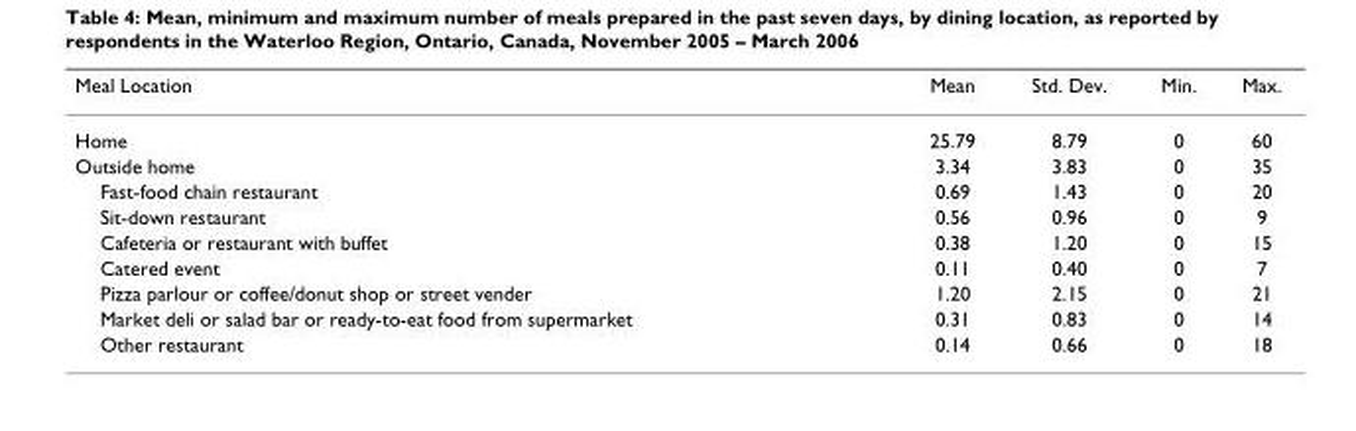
<table><thead><tr><td>Meal Location</td><td>Mean</td><td>Std. Dev.</td><td>Min.</td><td>Max.</td></tr></thead><tbody><tr><td>Home</td><td>25.79</td><td>8.79</td><td>0</td><td>60</td></tr><tr><td>Outside home</td><td>3.34</td><td>3.83</td><td>0</td><td>35</td></tr><tr><td>Fast-food chain restaurant</td><td>0.69</td><td>1.43</td><td>0</td><td>20</td></tr><tr><td>Sit-down restaurant</td><td>0.56</td><td>0.96</td><td>0</td><td>9</td></tr><tr><td>Cafeteria or restaurant with buffet</td><td>0.38</td><td>1.20</td><td>0</td><td>15</td></tr><tr><td>Catered event</td><td>0.11</td><td>0.40</td><td>0</td><td>7</td></tr><tr><td>Pizza parlour or coffee/donut shop or street vender</td><td>1.20</td><td>2.15</td><td>0</td><td>21</td></tr><tr><td>Market deli or salad bar or ready-to-eat food from supermarket</td><td>0.31</td><td>0.83</td><td>0</td><td>14</td></tr><tr><td>Other restaurant</td><td>0.14</td><td>0.66</td><td>0</td><td>18</td></tr></tbody></table>